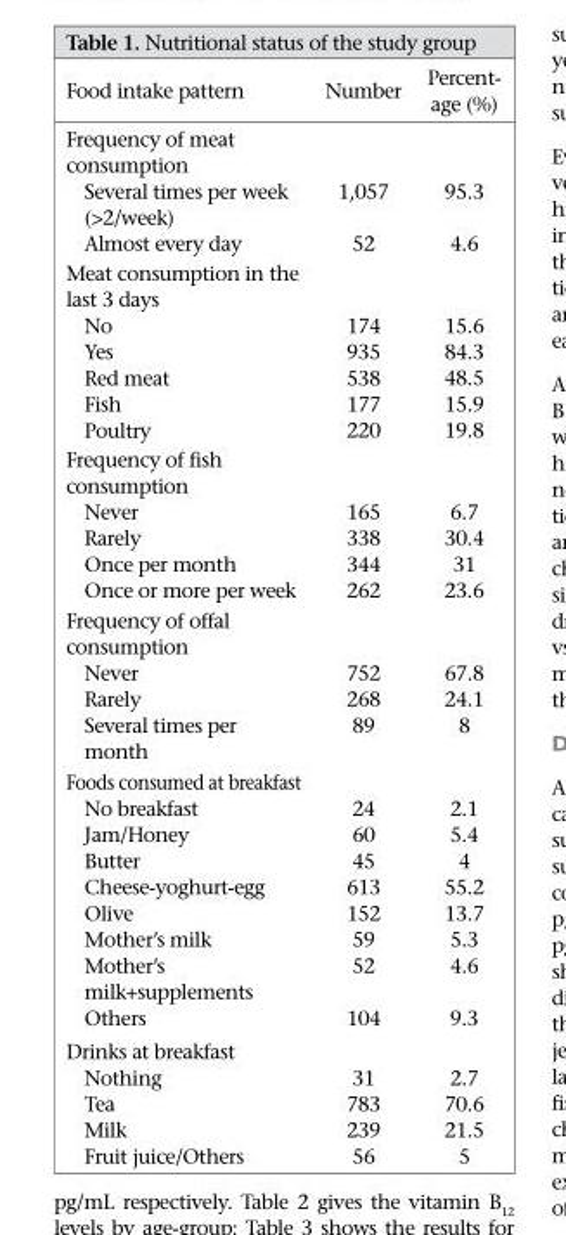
<table><thead><tr><td>Food intake pattern</td><td>Number</td><td>Percent- age (%)</td></tr></thead><tbody><tr><td colspan="3">Frequency of meat consumption</td></tr><tr><td>Several times per week (&gt;2/week) Almost every day</td><td>1,057 52</td><td>95.3 4.6</td></tr><tr><td colspan="3">Meat consumption in the last 3 days</td></tr><tr><td>No Yes Red meat Fish Poultry</td><td>174 935 538 177 220</td><td>15.6 84.3 48.5 15.9 19.8</td></tr><tr><td colspan="3">Frequency of fish consumption</td></tr><tr><td>Never Rarely Once per month Once or more per week</td><td>165 338 344 262</td><td>6.7 30.4 31 23.6</td></tr><tr><td colspan="3">Frequency of offal consumption</td></tr><tr><td>Never Rarely Several times per month</td><td>752 268 89</td><td>67.8 24.1 8</td></tr><tr><td colspan="3">Foods consumed at breakfast</td></tr><tr><td>No breakfast Jam/Honey Butter Cheese-yoghurt-egg Olive Mother’s milk Mother’s milk+supplements Others</td><td>24 60 45 613 152 59 52 104</td><td>2.1 5.4 4 55.2 13.7 5.3 4.6 9.3</td></tr><tr><td colspan="3">Drinks at breakfast</td></tr><tr><td>Nothing Tea Milk Fruit juice/Others</td><td>31 783 239 56</td><td>2.7 70.6 21.5 5</td></tr></tbody></table>